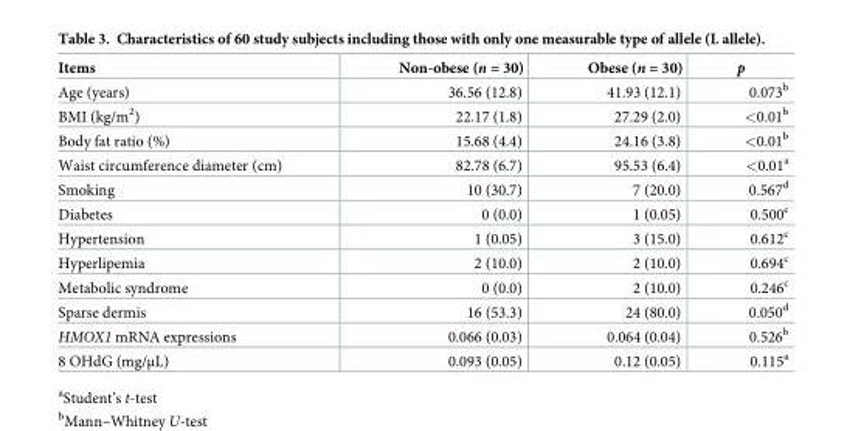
<table><thead><tr><td>Items</td><td>Non-obese (n = 30)</td><td>Obese (n = 30)</td><td>p</td></tr></thead><tbody><tr><td>Age (years)</td><td>36.56 (12.8)</td><td>41.93 (12.1)</td><td>0.073<sup>b</sup></td></tr><tr><td>BMI (kg/m<sup>2</sup>)</td><td>22.17 (1.8)</td><td>27.29 (2.0)</td><td>&lt;0.01<sup>b</sup></td></tr><tr><td>Body fat ratio (%)</td><td>15.68 (4.4)</td><td>24.16 (3.8)</td><td>&lt;0.01<sup>b</sup></td></tr><tr><td>Waist circumference diameter (cm)</td><td>82.78 (6.7)</td><td>95.53 (6.4)</td><td>&lt;0.01<sup>a</sup></td></tr><tr><td>Smoking</td><td>10 (30.7)</td><td>7 (20.0)</td><td>0.567<sup>d</sup></td></tr><tr><td>Diabetes</td><td>0 (0.0)</td><td>1 (0.05)</td><td>0.500<sup>c</sup></td></tr><tr><td>Hypertension</td><td>1 (0.05)</td><td>3 (15.0)</td><td>0.612<sup>c</sup></td></tr><tr><td>Hyperlipemia</td><td>2 (10.0)</td><td>2 (10.0)</td><td>0.694<sup>c</sup></td></tr><tr><td>Metabolic syndrome</td><td>0 (0.0)</td><td>2 (10.0)</td><td>0.246<sup>c</sup></td></tr><tr><td>Sparse dermis</td><td>16 (53.3)</td><td>24 (80.0)</td><td>0.050<sup>d</sup></td></tr><tr><td>HMOX1 mRNA expressions</td><td>0.066 (0.03)</td><td>0.064 (0.04)</td><td>0.526<sup>b</sup></td></tr><tr><td>8 OHdG (mg/μL)</td><td>0.093 (0.05)</td><td>0.12 (0.05)</td><td>0.115<sup>a</sup></td></tr></tbody></table>